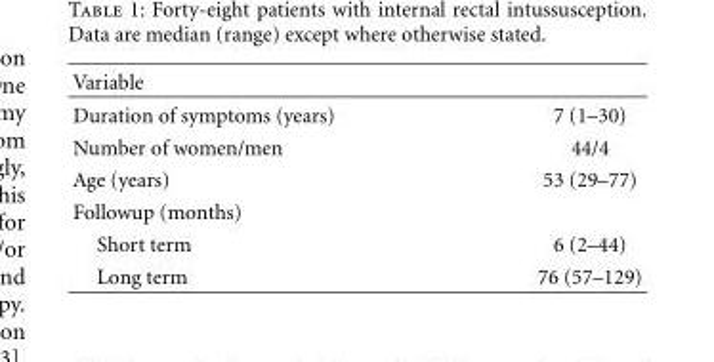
<table><thead><tr><td>Variable</td><td></td></tr></thead><tbody><tr><td>Duration of symptoms (years)</td><td>7 (1–30)</td></tr><tr><td>Number of women/men</td><td>44/4</td></tr><tr><td>Age (years)</td><td>53 (29–77)</td></tr><tr><td colspan="2">Followup (months)</td></tr><tr><td>Short term</td><td>6 (2–44)</td></tr><tr><td>Long term</td><td>76 (57–129)</td></tr></tbody></table>